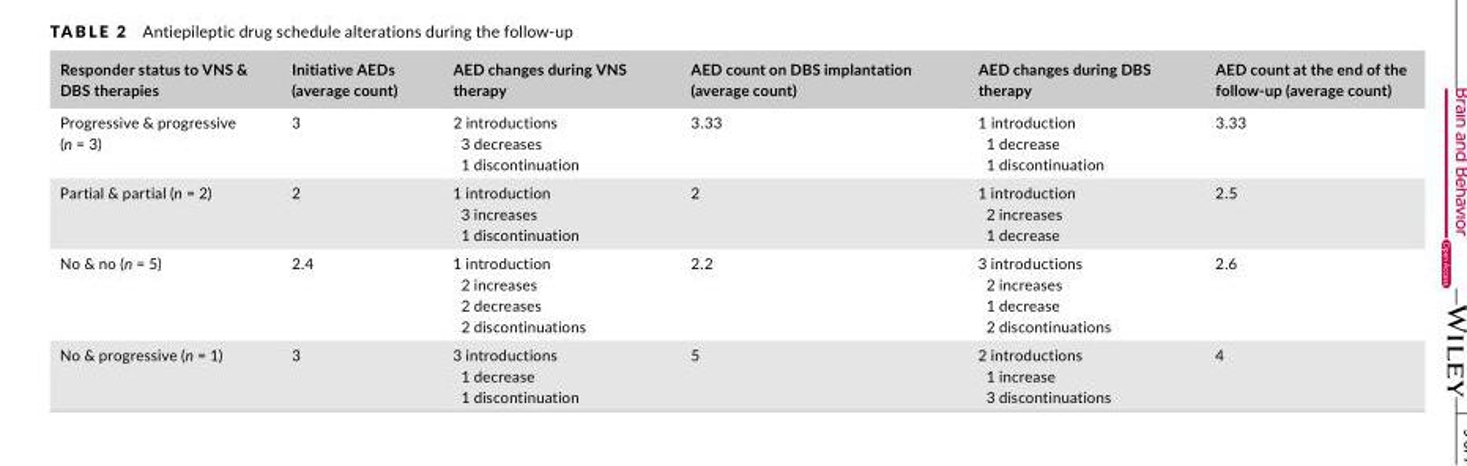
<table><thead><tr><td>Responder status to VNS &amp; DBS therapies</td><td>Initiative AEDs (average count)</td><td>AED changes during VNS therapy</td><td>AED count on DBS implantation (average count)</td><td>AED changes during DBS therapy</td><td>AED count at the end of the follow- up (average count)</td></tr></thead><tbody><tr><td>Progressive &amp; progressive (n = 3)</td><td>3</td><td>2 introductions 3 decreases 1 discontinuation</td><td>3.33</td><td>1 introduction 1 decrease 1 discontinuation</td><td>3.33</td></tr><tr><td>Partial &amp; partial (n = 2)</td><td>2</td><td>1 introduction 3 increases 1 discontinuation</td><td>2</td><td>1 introduction 2 increases 1 decrease</td><td>2.5</td></tr><tr><td>No &amp; no (n = 5)</td><td>2.4</td><td>1 introduction 2 increases 2 decreases 2 discontinuations</td><td>2.2</td><td>3 introductions 2 increases 1 decrease 2 discontinuations</td><td>2.6</td></tr><tr><td>No &amp; progressive (n = 1)</td><td>3</td><td>3 introductions 1 decrease 1 discontinuation</td><td>5</td><td>2 introductions 1 increase 3 discontinuations</td><td>4</td></tr></tbody></table>